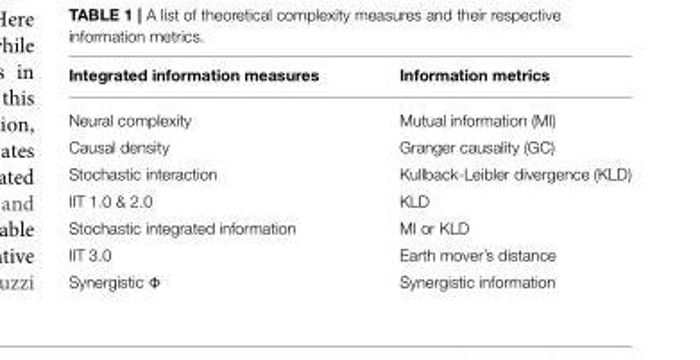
<table><thead><tr><td>Integrated information measures</td><td>Information metrics</td></tr></thead><tbody><tr><td>Neural complexity</td><td>Mutual information (MI)</td></tr><tr><td>Causal density</td><td>Granger causality (GC)</td></tr><tr><td>Stochastic interaction</td><td>Kullback-Leibler divergence (KLD)</td></tr><tr><td>IIT 1.0 &amp; 2.0</td><td>KLD</td></tr><tr><td>Stochastic integrated information</td><td>MI or KLD</td></tr><tr><td>IIT 3.0</td><td>Earth mover’s distance</td></tr><tr><td>Synergistic Φ</td><td>Synergistic information</td></tr></tbody></table>